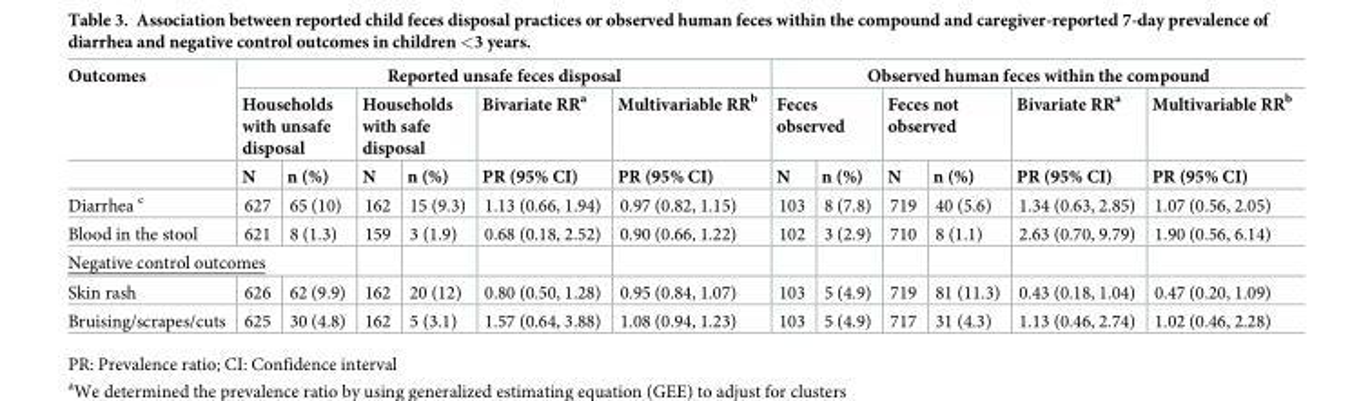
<table><thead><tr><td rowspan="3">Outcomes</td><td colspan="6">Reported unsafe feces disposal</td><td colspan="6">Observed human feces within the compound</td></tr><tr><td colspan="2">Households with unsafe disposal</td><td colspan="2">Households with safe disposal</td><td rowspan="2">Bivariate RR<sup>a</sup> PR (95% CI)</td><td rowspan="2">Multivariable RR<sup>b</sup> PR (95% CI)</td><td colspan="2">Feces observed</td><td colspan="2">Feces not observed</td><td rowspan="2">Bivariate RR<sup>a</sup> PR (95% CI)</td><td rowspan="2">Multivariable RR<sup>b</sup> PR (95% CI)</td></tr><tr><td>N</td><td>n (%)</td><td>N</td><td>n (%)</td><td>N</td><td>n (%)</td><td>N</td><td>n (%)</td></tr></thead><tbody><tr><td>Diarrhea <sup>c</sup></td><td>627</td><td>65 (10)</td><td>162</td><td>15 (9.3)</td><td>1.13 (0.66, 1.94)</td><td>0.97 (0.82, 1.15)</td><td>103</td><td>8 (7.8)</td><td>719</td><td>40 (5.6)</td><td>1.34 (0.63, 2.85)</td><td>1.07 (0.56, 2.05)</td></tr><tr><td>Blood in the stool</td><td>621</td><td>8 (1.3)</td><td>159</td><td>3 (1.9)</td><td>0.68 (0.18, 2.52)</td><td>0.90 (0.66, 1.22)</td><td>102</td><td>3 (2.9)</td><td>710</td><td>8 (1.1)</td><td>2.63 (0.70, 9.79)</td><td>1.90 (0.56, 6.14)</td></tr><tr><td colspan="13">Negative control outcomes</td></tr><tr><td>Skin rash</td><td>626</td><td>62 (9.9)</td><td>162</td><td>20 (12)</td><td>0.80 (0.50, 1.28)</td><td>0.95 (0.84, 1.07)</td><td>103</td><td>5 (4.9)</td><td>719</td><td>81 (11.3)</td><td>0.43 (0.18, 1.04)</td><td>0.47 (0.20, 1.09)</td></tr><tr><td>Bruising/scrapes/cuts</td><td>625</td><td>30 (4.8)</td><td>162</td><td>5 (3.1)</td><td>1.57 (0.64, 3.88)</td><td>1.08 (0.94, 1.23)</td><td>103</td><td>5 (4.9)</td><td>717</td><td>31 (4.3)</td><td>1.13 (0.46, 2.74)</td><td>1.02 (0.46, 2.28)</td></tr></tbody></table>